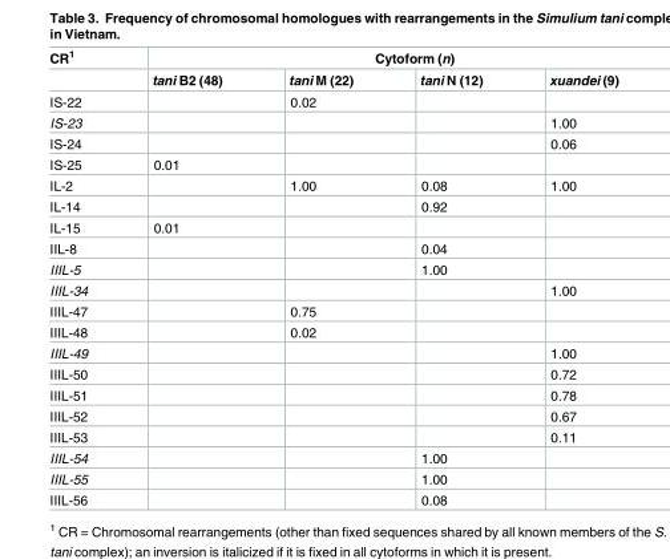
<table><thead><tr><td rowspan="2">CR<sup>1</sup></td><td colspan="4">Cytoform (n)</td></tr><tr><td>tani B2 (48)</td><td>tani M (22)</td><td>tani N (12)</td><td>xuandei (9)</td></tr></thead><tbody><tr><td>IS-22</td><td></td><td>0.02</td><td></td><td></td></tr><tr><td>IS-23</td><td></td><td></td><td></td><td>1.00</td></tr><tr><td>IS-24</td><td></td><td></td><td></td><td>0.06</td></tr><tr><td>IS-25</td><td>0.01</td><td></td><td></td><td></td></tr><tr><td>IL-2</td><td></td><td>1.00</td><td>0.08</td><td>1.00</td></tr><tr><td>IL-14</td><td></td><td></td><td>0.92</td><td></td></tr><tr><td>IL-15</td><td>0.01</td><td></td><td></td><td></td></tr><tr><td>IIL-8</td><td></td><td></td><td>0.04</td><td></td></tr><tr><td>IIIL-5</td><td></td><td></td><td>1.00</td><td></td></tr><tr><td>IIIL-34</td><td></td><td></td><td></td><td>1.00</td></tr><tr><td>IIIL-47</td><td></td><td>0.75</td><td></td><td></td></tr><tr><td>IIIL-48</td><td></td><td>0.02</td><td></td><td></td></tr><tr><td>IIIL-49</td><td></td><td></td><td></td><td>1.00</td></tr><tr><td>IIIL-50</td><td></td><td></td><td></td><td>0.72</td></tr><tr><td>IIIL-51</td><td></td><td></td><td></td><td>0.78</td></tr><tr><td>IIIL-52</td><td></td><td></td><td></td><td>0.67</td></tr><tr><td>IIIL-53</td><td></td><td></td><td></td><td>0.11</td></tr><tr><td>IIIL-54</td><td></td><td></td><td>1.00</td><td></td></tr><tr><td>IIIL-55</td><td></td><td></td><td>1.00</td><td></td></tr><tr><td>IIIL-56</td><td></td><td></td><td>0.08</td><td></td></tr></tbody></table>